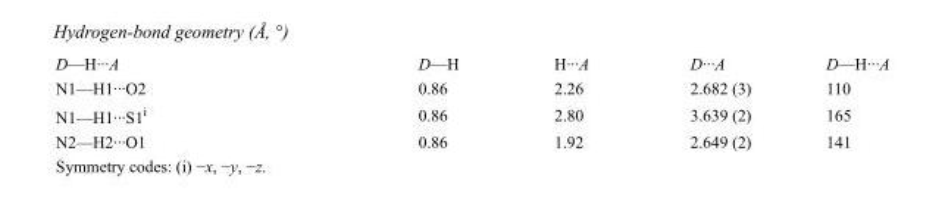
<table><tbody><tr><td>D—H···A</td><td>D—H</td><td>H···A</td><td>D···A</td><td>D—H···A</td></tr><tr><td>N1—H1···O2</td><td>0.86</td><td>2.26</td><td>2.682 (3)</td><td>110</td></tr><tr><td>N1—H1···S1<sup>i</sup></td><td>0.86</td><td>2.80</td><td>3.639 (2)</td><td>165</td></tr><tr><td>N2—H2···O1</td><td>0.86</td><td>1.92</td><td>2.649 (2)</td><td>141</td></tr></tbody></table>